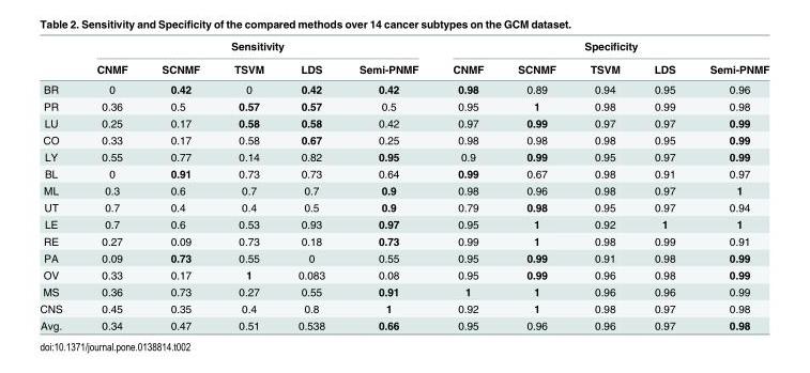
<table><thead><tr><td rowspan="2"></td><td colspan="5">Sensitivity</td><td colspan="5">Specificity</td></tr><tr><td>CNMF</td><td>SCNMF</td><td>TSVM</td><td>LDS</td><td>Semi-PNMF</td><td>CNMF</td><td>SCNMF</td><td>TSVM</td><td>LDS</td><td>Semi-PNMF</td></tr></thead><tbody><tr><td>BR</td><td>0</td><td>0.42</td><td>0</td><td>0.42</td><td>0.42</td><td>0.98</td><td>0.89</td><td>0.94</td><td>0.95</td><td>0.96</td></tr><tr><td>PR</td><td>0.36</td><td>0.5</td><td>0.57</td><td>0.57</td><td>0.5</td><td>0.95</td><td>1</td><td>0.98</td><td>0.99</td><td>0.98</td></tr><tr><td>LU</td><td>0.25</td><td>0.17</td><td>0.58</td><td>0.58</td><td>0.42</td><td>0.97</td><td>0.99</td><td>0.97</td><td>0.97</td><td>0.99</td></tr><tr><td>CO</td><td>0.33</td><td>0.17</td><td>0.58</td><td>0.67</td><td>0.25</td><td>0.98</td><td>0.98</td><td>0.98</td><td>0.95</td><td>0.99</td></tr><tr><td>LY</td><td>0.55</td><td>0.77</td><td>0.14</td><td>0.82</td><td>0.95</td><td>0.9</td><td>0.99</td><td>0.95</td><td>0.97</td><td>0.99</td></tr><tr><td>BL</td><td>0</td><td>0.91</td><td>0.73</td><td>0.73</td><td>0.64</td><td>0.99</td><td>0.67</td><td>0.98</td><td>0.91</td><td>0.97</td></tr><tr><td>ML</td><td>0.3</td><td>0.6</td><td>0.7</td><td>0.7</td><td>0.9</td><td>0.98</td><td>0.96</td><td>0.98</td><td>0.97</td><td>1</td></tr><tr><td>UT</td><td>0.7</td><td>0.4</td><td>0.4</td><td>0.5</td><td>0.9</td><td>0.79</td><td>0.98</td><td>0.95</td><td>0.97</td><td>0.94</td></tr><tr><td>LE</td><td>0.7</td><td>0.6</td><td>0.53</td><td>0.93</td><td>0.97</td><td>0.95</td><td>1</td><td>0.92</td><td>1</td><td>1</td></tr><tr><td>RE</td><td>0.27</td><td>0.09</td><td>0.73</td><td>0.18</td><td>0.73</td><td>0.99</td><td>1</td><td>0.98</td><td>0.99</td><td>0.91</td></tr><tr><td>PA</td><td>0.09</td><td>0.73</td><td>0.55</td><td>0</td><td>0.55</td><td>0.95</td><td>0.99</td><td>0.91</td><td>0.98</td><td>0.99</td></tr><tr><td>OV</td><td>0.33</td><td>0.17</td><td>1</td><td>0.083</td><td>0.08</td><td>0.95</td><td>0.99</td><td>0.96</td><td>0.98</td><td>0.99</td></tr><tr><td>MS</td><td>0.36</td><td>0.73</td><td>0.27</td><td>0.55</td><td>0.91</td><td>1</td><td>1</td><td>0.96</td><td>0.96</td><td>0.99</td></tr><tr><td>CNS</td><td>0.45</td><td>0.35</td><td>0.4</td><td>0.8</td><td>1</td><td>0.92</td><td>1</td><td>0.98</td><td>0.97</td><td>0.98</td></tr><tr><td>Avg.</td><td>0.34</td><td>0.47</td><td>0.51</td><td>0.538</td><td>0.66</td><td>0.95</td><td>0.96</td><td>0.96</td><td>0.97</td><td>0.98</td></tr></tbody></table>